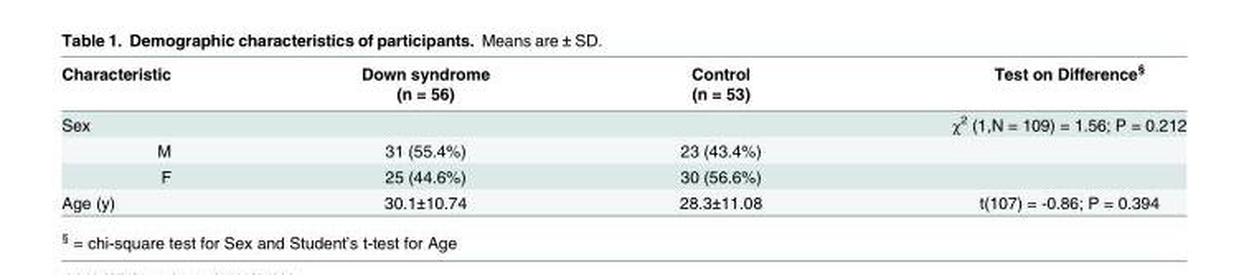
<table><thead><tr><td rowspan="2">Characteristic</td><td rowspan="2">Down syndrome (n = 56)</td><td rowspan="2">Control (n = 53)</td><td rowspan="2">Test on Difference<sup>§</sup></td></tr><tr></tr></thead><tbody><tr><td>Sex</td><td></td><td></td><td>χ<sup>2</sup> (1,N = 109) = 1.56; P = 0.212</td></tr><tr><td>M</td><td>31 (55.4%)</td><td>23 (43.4%)</td><td></td></tr><tr><td>F</td><td>25 (44.6%)</td><td>30 (56.6%)</td><td></td></tr><tr><td>Age (y)</td><td>30.1±10.74</td><td>28.3±11.08</td><td>t(107) = -0.86; P = 0.394</td></tr></tbody></table>